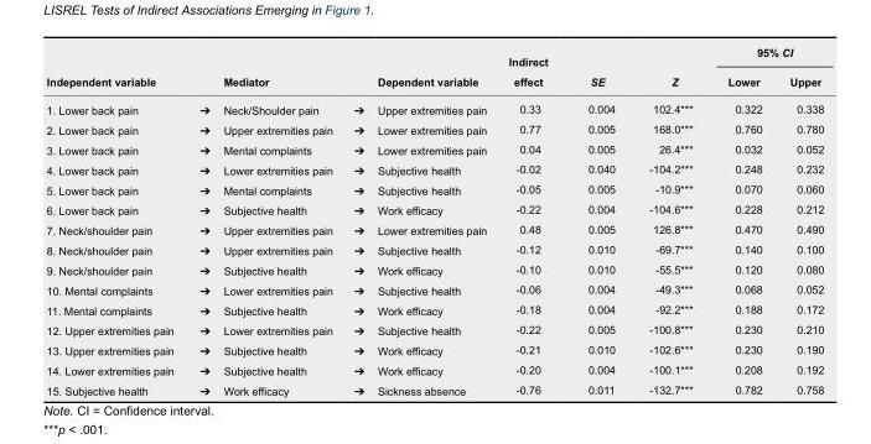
<table><thead><tr><td rowspan="2">Independent variable</td><td rowspan="2"></td><td rowspan="2">Mediator</td><td rowspan="2"></td><td rowspan="2">Dependent variable</td><td rowspan="2">Indirect effect</td><td rowspan="2">SE</td><td rowspan="2">Z</td><td colspan="2">95% CI</td></tr><tr><td>Lower</td><td>Upper</td></tr></thead><tbody><tr><td>1. Lower back pain</td><td>➔</td><td>Neck/Shoulder pain</td><td>➔</td><td>Upper extremities pain</td><td>0.33</td><td>0.004</td><td>102.4***</td><td>0.322</td><td>0.338</td></tr><tr><td>2. Lower back pain</td><td>➔</td><td>Upper extremities pain</td><td>➔</td><td>Lower extremities pain</td><td>0.77</td><td>0.005</td><td>168.0***</td><td>0.760</td><td>0.780</td></tr><tr><td>3. Lower back pain</td><td>➔</td><td>Mental complaints</td><td>➔</td><td>Lower extremities pain</td><td>0.04</td><td>0.005</td><td>26.4***</td><td>0.032</td><td>0.052</td></tr><tr><td>4. Lower back pain</td><td>➔</td><td>Lower extremities pain</td><td>➔</td><td>Subjective health</td><td>-0.02</td><td>0.040</td><td>-104.2***</td><td>0.248</td><td>0.232</td></tr><tr><td>5. Lower back pain</td><td>➔</td><td>Mental complaints</td><td>➔</td><td>Subjective health</td><td>-0.05</td><td>0.005</td><td>-10.9***</td><td>0.070</td><td>0.060</td></tr><tr><td>6. Lower back pain</td><td>➔</td><td>Subjective health</td><td>➔</td><td>Work efficacy</td><td>-0.22</td><td>0.004</td><td>-104.6***</td><td>0.228</td><td>0.212</td></tr><tr><td>7. Neck/shoulder pain</td><td>➔</td><td>Upper extremities pain</td><td>➔</td><td>Lower extremities pain</td><td>0.48</td><td>0.005</td><td>126.8***</td><td>0.470</td><td>0.490</td></tr><tr><td>8. Neck/shoulder pain</td><td>➔</td><td>Upper extremities pain</td><td>➔</td><td>Subjective health</td><td>-0.12</td><td>0.010</td><td>-69.7***</td><td>0.140</td><td>0.100</td></tr><tr><td>9. Neck/shoulder pain</td><td>➔</td><td>Subjective health</td><td>➔</td><td>Work efficacy</td><td>-0.10</td><td>0.010</td><td>-55.5***</td><td>0.120</td><td>0.080</td></tr><tr><td>10. Mental complaints</td><td>➔</td><td>Lower extremities pain</td><td>➔</td><td>Subjective health</td><td>-0.06</td><td>0.004</td><td>-49.3***</td><td>0.068</td><td>0.052</td></tr><tr><td>11. Mental complaints</td><td>➔</td><td>Subjective health</td><td>➔</td><td>Work efficacy</td><td>-0.18</td><td>0.004</td><td>-92.2***</td><td>0.188</td><td>0.172</td></tr><tr><td>12. Upper extremities pain</td><td>➔</td><td>Lower extremities pain</td><td>➔</td><td>Subjective health</td><td>-0.22</td><td>0.005</td><td>-100.8***</td><td>0.230</td><td>0.210</td></tr><tr><td>13. Upper extremities pain</td><td>➔</td><td>Subjective health</td><td>➔</td><td>Work efficacy</td><td>-0.21</td><td>0.010</td><td>-102.6***</td><td>0.230</td><td>0.190</td></tr><tr><td>14. Lower extremities pain</td><td>➔</td><td>Subjective health</td><td>➔</td><td>Work efficacy</td><td>-0.20</td><td>0.004</td><td>-100.1***</td><td>0.208</td><td>0.192</td></tr><tr><td>15. Subjective health</td><td>➔</td><td>Work efficacy</td><td>➔</td><td>Sickness absence</td><td>-0.76</td><td>0.011</td><td>-132.7***</td><td>0.782</td><td>0.758</td></tr></tbody></table>